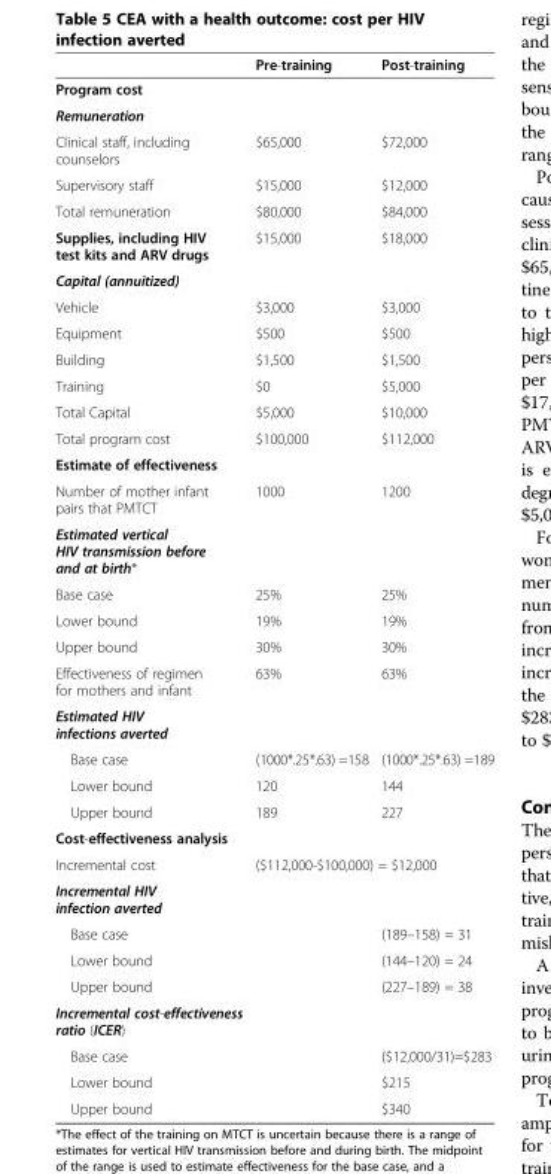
<table><thead><tr><td></td><td>Pre-training</td><td>Post-training</td></tr></thead><tbody><tr><td colspan="3">Program cost</td></tr><tr><td colspan="3">Remuneration</td></tr><tr><td>Clinical staff, including counselors</td><td>$65,000</td><td>$72,000</td></tr><tr><td>Supervisory staff</td><td>$15,000</td><td>$12,000</td></tr><tr><td>Total remuneration</td><td>$80,000</td><td>$84,000</td></tr><tr><td>Supplies, including HIV test kits and ARV drugs</td><td>$15,000</td><td>$18,000</td></tr><tr><td colspan="3">Capital (annuitized)</td></tr><tr><td>Vehicle</td><td>$3,000</td><td>$3,000</td></tr><tr><td>Equipment</td><td>$500</td><td>$500</td></tr><tr><td>Building</td><td>$1,500</td><td>$1,500</td></tr><tr><td>Training</td><td>$0</td><td>$5,000</td></tr><tr><td>Total Capital</td><td>$5,000</td><td>$10,000</td></tr><tr><td>Total program cost</td><td>$100,000</td><td>$112,000</td></tr><tr><td colspan="3">Estimate of effectiveness</td></tr><tr><td>Number of mother infant pairs that PMTCT</td><td>1000</td><td>1200</td></tr><tr><td colspan="3">Estimated vertical HIV transmission before and at birth*</td></tr><tr><td>Base case</td><td>25%</td><td>25%</td></tr><tr><td>Lower bound</td><td>19%</td><td>19%</td></tr><tr><td>Upper bound</td><td>30%</td><td>30%</td></tr><tr><td>Effectiveness of regimen for mothers and infant</td><td>63%</td><td>63%</td></tr><tr><td colspan="3">Estimated HIV infections averted</td></tr><tr><td>Base case</td><td>(1000*.25*.63) =158</td><td>(1000*.25*.63) =189</td></tr><tr><td>Lower bound</td><td>120</td><td>144</td></tr><tr><td>Upper bound</td><td>189</td><td>227</td></tr><tr><td colspan="3">Cost-effectiveness analysis</td></tr><tr><td>Incremental cost</td><td colspan="2">($112,000-$100,000) = $12,000</td></tr><tr><td colspan="3">Incremental HIV infection averted</td></tr><tr><td>Base case</td><td></td><td>(189–158) = 31</td></tr><tr><td>Lower bound</td><td></td><td>(144–120) = 24</td></tr><tr><td>Upper bound</td><td></td><td>(227–189) = 38</td></tr><tr><td colspan="3">Incremental cost-effectiveness ratio (ICER)</td></tr><tr><td>Base case</td><td></td><td>($12,000/31)=$283</td></tr><tr><td>Lower bound</td><td></td><td>$215</td></tr><tr><td>Upper bound</td><td></td><td>$340</td></tr></tbody></table>